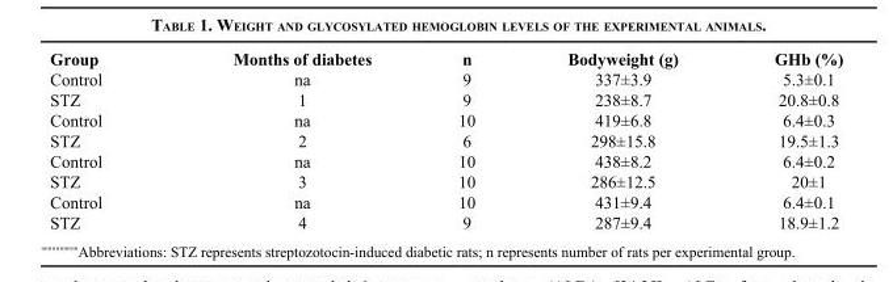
<table><thead><tr><td>Group</td><td>Months of diabetes</td><td>n</td><td>Bodyweight (g)</td><td>GHb (%)</td></tr></thead><tbody><tr><td>Control</td><td>na</td><td>9</td><td>337±3.9</td><td>5.3±0.1</td></tr><tr><td>STZ</td><td>1</td><td>9</td><td>238±8.7</td><td>20.8±0.8</td></tr><tr><td>Control</td><td>na</td><td>10</td><td>419±6.8</td><td>6.4±0.3</td></tr><tr><td>STZ</td><td>2</td><td>6</td><td>298±15.8</td><td>19.5±1.3</td></tr><tr><td>Control</td><td>na</td><td>10</td><td>438±8.2</td><td>6.4±0.2</td></tr><tr><td>STZ</td><td>3</td><td>10</td><td>286±12.5</td><td>20±1</td></tr><tr><td>Control</td><td>na</td><td>10</td><td>431±9.4</td><td>6.4±0.1</td></tr><tr><td>STZ</td><td>4</td><td>9</td><td>287±9.4</td><td>18.9±1.2</td></tr></tbody></table>